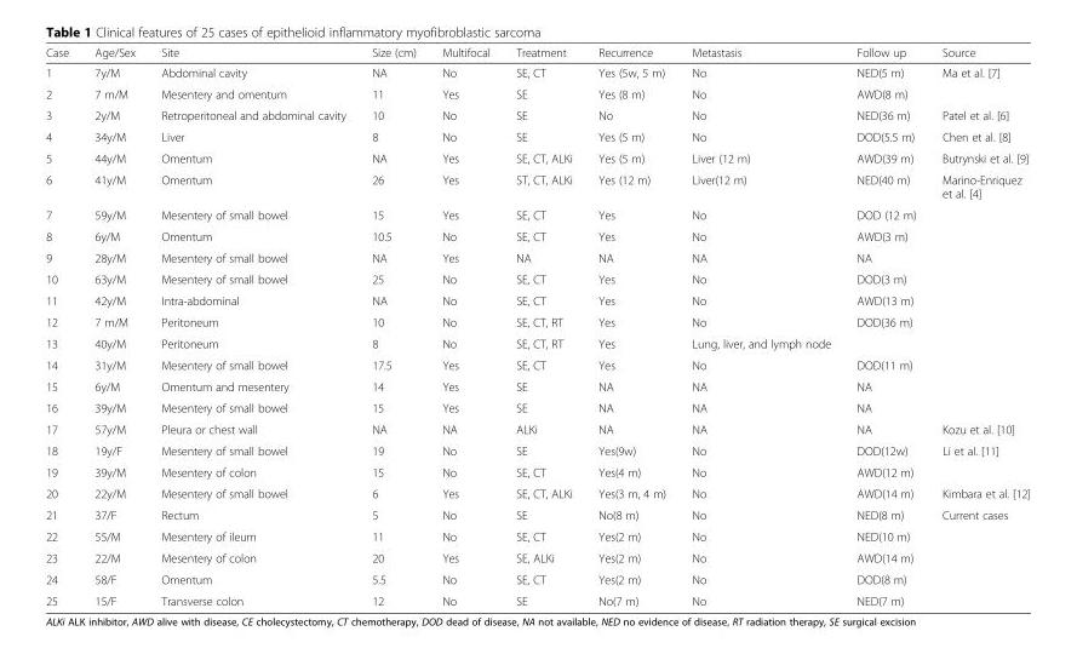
<table><thead><tr><td>Case</td><td>Age/Sex</td><td>Site</td><td>Size (cm)</td><td>Multifocal</td><td>Treatment</td><td>Recurrence</td><td>Metastasis</td><td>Follow up</td><td>Source</td></tr></thead><tbody><tr><td>1</td><td>7y/M</td><td>Abdominal cavity</td><td>NA</td><td>No</td><td>SE, CT</td><td>Yes (5w, 5 m)</td><td>No</td><td>NED(5 m)</td><td>Ma et al. [7]</td></tr><tr><td>2</td><td>7 m/M</td><td>Mesentery and omentum</td><td>11</td><td>Yes</td><td>SE</td><td>Yes (8 m)</td><td>No</td><td>AWD(8 m)</td><td></td></tr><tr><td>3</td><td>2y/M</td><td>Retroperitoneal and abdominal cavity</td><td>10</td><td>No</td><td>SE</td><td>No</td><td>No</td><td>NED(36 m)</td><td>Patel et al. [6]</td></tr><tr><td>4</td><td>34y/M</td><td>Liver</td><td>8</td><td>No</td><td>SE</td><td>Yes (5 m)</td><td>No</td><td>DOD(5.5 m)</td><td>Chen et al. [8]</td></tr><tr><td>5</td><td>44y/M</td><td>Omentum</td><td>NA</td><td>Yes</td><td>SE, CT, ALKi</td><td>Yes (5 m)</td><td>Liver (12 m)</td><td>AWD(39 m)</td><td>Butrynski et al. [9]</td></tr><tr><td>6</td><td>41y/M</td><td>Omentum</td><td>26</td><td>Yes</td><td>ST, CT, ALKi</td><td>Yes (12 m)</td><td>Liver(12 m)</td><td>NED(40 m)</td><td>Marino-Enriquez et al. [4]</td></tr><tr><td>7</td><td>59y/M</td><td>Mesentery of small bowel</td><td>15</td><td>Yes</td><td>SE, CT</td><td>Yes</td><td>No</td><td>DOD (12 m)</td><td></td></tr><tr><td>8</td><td>6y/M</td><td>Omentum</td><td>10.5</td><td>No</td><td>SE, CT</td><td>Yes</td><td>No</td><td>AWD(3 m)</td><td></td></tr><tr><td>9</td><td>28y/M</td><td>Mesentery of small bowel</td><td>NA</td><td>Yes</td><td>NA</td><td>NA</td><td>NA</td><td>NA</td><td></td></tr><tr><td>10</td><td>63y/M</td><td>Mesentery of small bowel</td><td>25</td><td>No</td><td>SE, CT</td><td>Yes</td><td>No</td><td>DOD(3 m)</td><td></td></tr><tr><td>11</td><td>42y/M</td><td>Intra-abdominal</td><td>NA</td><td>No</td><td>SE, CT</td><td>Yes</td><td>No</td><td>AWD(13 m)</td><td></td></tr><tr><td>12</td><td>7 m/M</td><td>Peritoneum</td><td>10</td><td>No</td><td>SE, CT, RT</td><td>Yes</td><td>No</td><td>DOD(36 m)</td><td></td></tr><tr><td>13</td><td>40y/M</td><td>Peritoneum</td><td>8</td><td>No</td><td>SE, CT, RT</td><td>Yes</td><td>Lung, liver, and lymph node</td><td></td><td></td></tr><tr><td>14</td><td>31y/M</td><td>Mesentery of small bowel</td><td>17.5</td><td>Yes</td><td>SE, CT</td><td>Yes</td><td>No</td><td>DOD(11 m)</td><td></td></tr><tr><td>15</td><td>6y/M</td><td>Omentum and mesentery</td><td>14</td><td>Yes</td><td>SE</td><td>NA</td><td>NA</td><td>NA</td><td></td></tr><tr><td>16</td><td>39y/M</td><td>Mesentery of small bowel</td><td>15</td><td>Yes</td><td>SE</td><td>NA</td><td>NA</td><td>NA</td><td></td></tr><tr><td>17</td><td>57y/M</td><td>Pleura or chest wall</td><td>NA</td><td>NA</td><td>ALKi</td><td>NA</td><td>NA</td><td>NA</td><td>Kozu et al. [10]</td></tr><tr><td>18</td><td>19y/F</td><td>Mesentery of small bowel</td><td>19</td><td>No</td><td>SE</td><td>Yes(9w)</td><td>No</td><td>DOD(12w)</td><td>Li et al. [11]</td></tr><tr><td>19</td><td>39y/M</td><td>Mesentery of colon</td><td>15</td><td>No</td><td>SE, CT</td><td>Yes(4 m)</td><td>No</td><td>AWD(12 m)</td><td></td></tr><tr><td>20</td><td>22y/M</td><td>Mesentery of small bowel</td><td>6</td><td>Yes</td><td>SE, CT, ALKi</td><td>Yes(3 m, 4 m)</td><td>No</td><td>AWD(14 m)</td><td>Kimbara et al. [12]</td></tr><tr><td>21</td><td>37/F</td><td>Rectum</td><td>5</td><td>No</td><td>SE</td><td>No(8 m)</td><td>No</td><td>NED(8 m)</td><td>Current cases</td></tr><tr><td>22</td><td>55/M</td><td>Mesentery of ileum</td><td>11</td><td>No</td><td>SE, CT</td><td>Yes(2 m)</td><td>No</td><td>NED(10 m)</td><td></td></tr><tr><td>23</td><td>22/M</td><td>Mesentery of colon</td><td>20</td><td>Yes</td><td>SE, ALKi</td><td>Yes(2 m)</td><td>No</td><td>AWD(14 m)</td><td></td></tr><tr><td>24</td><td>58/F</td><td>Omentum</td><td>5.5</td><td>No</td><td>SE, CT</td><td>Yes(2 m)</td><td>No</td><td>DOD(8 m)</td><td></td></tr><tr><td>25</td><td>15/F</td><td>Transverse colon</td><td>12</td><td>No</td><td>SE</td><td>No(7 m)</td><td>No</td><td>NED(7 m)</td><td></td></tr></tbody></table>